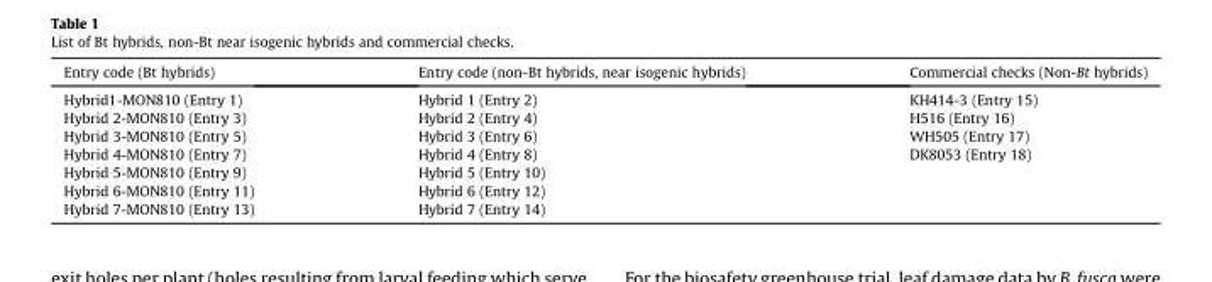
<table><thead><tr><td>Entry code (Bt hybrids)</td><td>Entry code (non-Bt hybrids, near isogenic hybrids)</td><td>Commercial checks (Non-Bt hybrids)</td></tr></thead><tbody><tr><td>Hybrid1-MON810 (Entry 1)</td><td>Hybrid 1 (Entry 2)</td><td>KH414-3 (Entry 15)</td></tr><tr><td>Hybrid 2-MON810 (Entry 3)</td><td>Hybrid 2 (Entry 4)</td><td>H516 (Entry 16)</td></tr><tr><td>Hybrid 3-MON810 (Entry 5)</td><td>Hybrid 3 (Entry 6)</td><td>WH505 (Entry 17)</td></tr><tr><td>Hybrid 4-MON810 (Entry 7)</td><td>Hybrid 4 (Entry 8)</td><td>DK8053 (Entry 18)</td></tr><tr><td>Hybrid 5-MON810 (Entry 9)</td><td>Hybrid 5 (Entry 10)</td><td></td></tr><tr><td>Hybrid 6-MON810 (Entry 11)</td><td>Hybrid 6 (Entry 12)</td><td></td></tr><tr><td>Hybrid 7-MON810 (Entry 13)</td><td>Hybrid 7 (Entry 14)</td><td></td></tr></tbody></table>